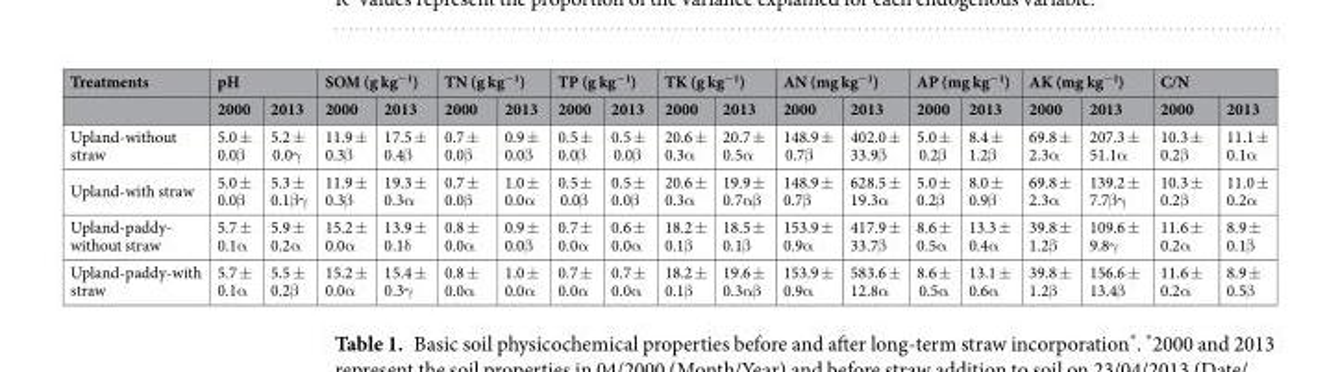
<table><thead><tr><td rowspan="2">Treatments</td><td colspan="2">pH</td><td colspan="2">SOM (g kg<sup>−1</sup>)</td><td colspan="2">TN (g kg<sup>−1</sup>)</td><td colspan="2">TP (g kg<sup>−1</sup>)</td><td colspan="2">TK (g kg<sup>−1</sup>)</td><td colspan="2">AN (mg kg<sup>−1</sup>)</td><td colspan="2">AP (mg kg<sup>−1</sup>)</td><td colspan="2">AK (mg kg<sup>−1</sup>)</td><td colspan="2">C/N</td></tr><tr><td>2000</td><td>2013</td><td>2000</td><td>2013</td><td>2000</td><td>2013</td><td>2000</td><td>2013</td><td>2000</td><td>2013</td><td>2000</td><td>2013</td><td>2000</td><td>2013</td><td>2000</td><td>2013</td><td>2000</td><td>2013</td></tr></thead><tbody><tr><td>Upland-without straw</td><td>5.0 ± 0.0β</td><td>5.2 ± 0.0γ</td><td>11.9 ± 0.3β</td><td>17.5 ± 0.4β</td><td>0.7 ± 0.0β</td><td>0.9 ± 0.0β</td><td>0.5 ± 0.0β</td><td>0.5 ± 0.0β</td><td>20.6 ± 0.3α</td><td>20.7 ± 0.5α</td><td>148.9 ± 0.7β</td><td>402.0 ± 33.9β</td><td>5.0 ± 0.2β</td><td>8.4 ± 1.2β</td><td>69.8 ± 2.3α</td><td>207.3 ± 51.1α</td><td>10.3 ± 0.2β</td><td>11.1 ± 0.1α</td></tr><tr><td>Upland-with straw</td><td>5.0 ± 0.0β</td><td>5.3 ± 0.1βγ</td><td>11.9 ± 0.3β</td><td>19.3 ± 0.3α</td><td>0.7 ± 0.0β</td><td>1.0 ± 0.0α</td><td>0.5 ± 0.0β</td><td>0.5 ± 0.0β</td><td>20.6 ± 0.3α</td><td>19.9 ± 0.7αβ</td><td>148.9 ± 0.7β</td><td>628.5 ± 19.3α</td><td>5.0 ± 0.2β</td><td>8.0 ± 0.9β</td><td>69.8 ± 2.3α</td><td>139.2 ± 7.7βγ</td><td>10.3 ± 0.2β</td><td>11.0 ± 0.2α</td></tr><tr><td>Upland-paddy- without straw</td><td>5.7 ± 0.1α</td><td>5.9 ± 0.2α</td><td>15.2 ± 0.0α</td><td>13.9 ± 0.1δ</td><td>0.8 ± 0.0α</td><td>0.9 ± 0.0β</td><td>0.7 ± 0.0α</td><td>0.6 ± 0.0α</td><td>18.2 ± 0.1β</td><td>18.5 ± 0.1β</td><td>153.9 ± 0.9α</td><td>417.9 ± 33.7β</td><td>8.6 ± 0.5α</td><td>13.3 ± 0.4α</td><td>39.8 ± 1.2β</td><td>109.6 ± 9.8γ</td><td>11.6 ± 0.2α</td><td>8.9 ± 0.1β</td></tr><tr><td>Upland-paddy-with straw</td><td>5.7 ± 0.1α</td><td>5.5 ± 0.2β</td><td>15.2 ± 0.0α</td><td>15.4 ± 0.3γ</td><td>0.8 ± 0.0α</td><td>1.0 ± 0.0α</td><td>0.7 ± 0.0α</td><td>0.7 ± 0.0α</td><td>18.2 ± 0.1β</td><td>19.6 ± 0.3αβ</td><td>153.9 ± 0.9α</td><td>583.6 ± 12.8α</td><td>8.6 ± 0.5α</td><td>13.1 ± 0.6α</td><td>39.8 ± 1.2β</td><td>156.6 ± 13.4β</td><td>11.6 ± 0.2α</td><td>8.9 ± 0.5β</td></tr></tbody></table>